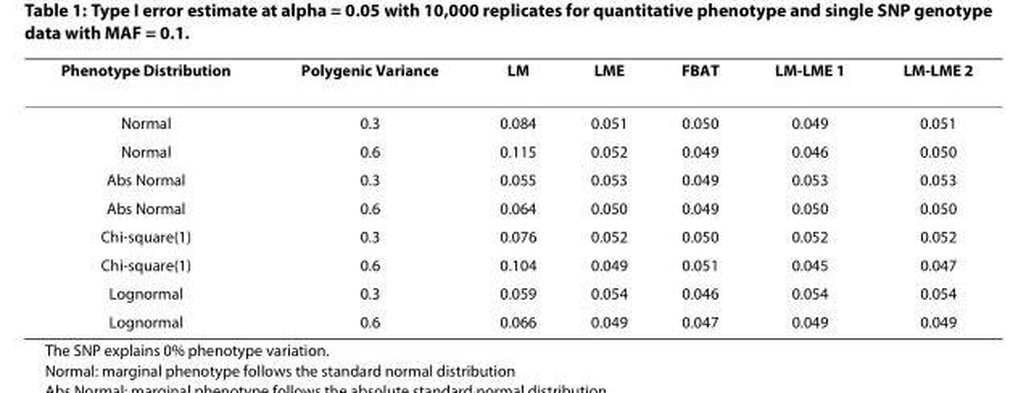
<table><thead><tr><td>Phenotype Distribution</td><td>Polygenic Variance</td><td>LM</td><td>LME</td><td>FBAT</td><td>LM-LME 1</td><td>LM-LME 2</td></tr></thead><tbody><tr><td>Normal</td><td>0.3</td><td>0.084</td><td>0.051</td><td>0.050</td><td>0.049</td><td>0.051</td></tr><tr><td>Normal</td><td>0.6</td><td>0.115</td><td>0.052</td><td>0.049</td><td>0.046</td><td>0.050</td></tr><tr><td>Abs Normal</td><td>0.3</td><td>0.055</td><td>0.053</td><td>0.049</td><td>0.053</td><td>0.053</td></tr><tr><td>Abs Normal</td><td>0.6</td><td>0.064</td><td>0.050</td><td>0.049</td><td>0.050</td><td>0.050</td></tr><tr><td>Chi-square(1)</td><td>0.3</td><td>0.076</td><td>0.052</td><td>0.050</td><td>0.052</td><td>0.052</td></tr><tr><td>Chi-square(1)</td><td>0.6</td><td>0.104</td><td>0.049</td><td>0.051</td><td>0.045</td><td>0.047</td></tr><tr><td>Lognormal</td><td>0.3</td><td>0.059</td><td>0.054</td><td>0.046</td><td>0.054</td><td>0.054</td></tr><tr><td>Lognormal</td><td>0.6</td><td>0.066</td><td>0.049</td><td>0.047</td><td>0.049</td><td>0.049</td></tr></tbody></table>